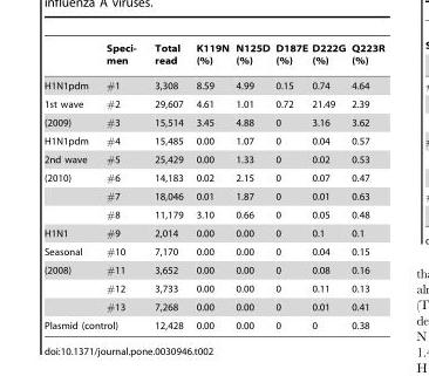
<table><thead><tr><td></td><td>Speci- men</td><td>Total read</td><td>K119N (%)</td><td>N125D (%)</td><td>D187E (%)</td><td>D222G (%)</td><td>Q223R (%)</td></tr></thead><tbody><tr><td>H1N1pdm</td><td>#1</td><td>3,308</td><td>8.59</td><td>4.99</td><td>0.15</td><td>0.74</td><td>4.64</td></tr><tr><td>1st wave</td><td>#2</td><td>29,607</td><td>4.61</td><td>1.01</td><td>0.72</td><td>21.49</td><td>2.39</td></tr><tr><td>(2009)</td><td>#3</td><td>15,514</td><td>3.45</td><td>4.88</td><td>0</td><td>3.16</td><td>3.62</td></tr><tr><td>H1N1pdm</td><td>#4</td><td>15,485</td><td>0.00</td><td>1.07</td><td>0</td><td>0.04</td><td>0.57</td></tr><tr><td>2nd wave</td><td>#5</td><td>25,429</td><td>0.00</td><td>1.33</td><td>0</td><td>0.02</td><td>0.53</td></tr><tr><td rowspan="3">(2010)</td><td>#6</td><td>14,183</td><td>0.02</td><td>2.15</td><td>0</td><td>0.07</td><td>0.47</td></tr><tr><td>#7</td><td>18,046</td><td>0.01</td><td>1.87</td><td>0</td><td>0.01</td><td>0.63</td></tr><tr><td>#8</td><td>11,179</td><td>3.10</td><td>0.66</td><td>0</td><td>0.05</td><td>0.48</td></tr><tr><td>H1N1</td><td>#9</td><td>2,014</td><td>0.00</td><td>0.00</td><td>0</td><td>0.1</td><td>0.1</td></tr><tr><td>Seasonal</td><td>#10</td><td>7,170</td><td>0.00</td><td>0.00</td><td>0</td><td>0.04</td><td>0.15</td></tr><tr><td rowspan="3">(2008)</td><td>#11</td><td>3,652</td><td>0.00</td><td>0.00</td><td>0</td><td>0.08</td><td>0.16</td></tr><tr><td>#12</td><td>3,733</td><td>0.00</td><td>0.00</td><td>0</td><td>0.11</td><td>0.13</td></tr><tr><td>#13</td><td>7,268</td><td>0.00</td><td>0.00</td><td>0</td><td>0.01</td><td>0.41</td></tr><tr><td colspan="2">Plasmid (control)</td><td>12,428</td><td>0.00</td><td>0.00</td><td>0</td><td>0</td><td>0.38</td></tr></tbody></table>